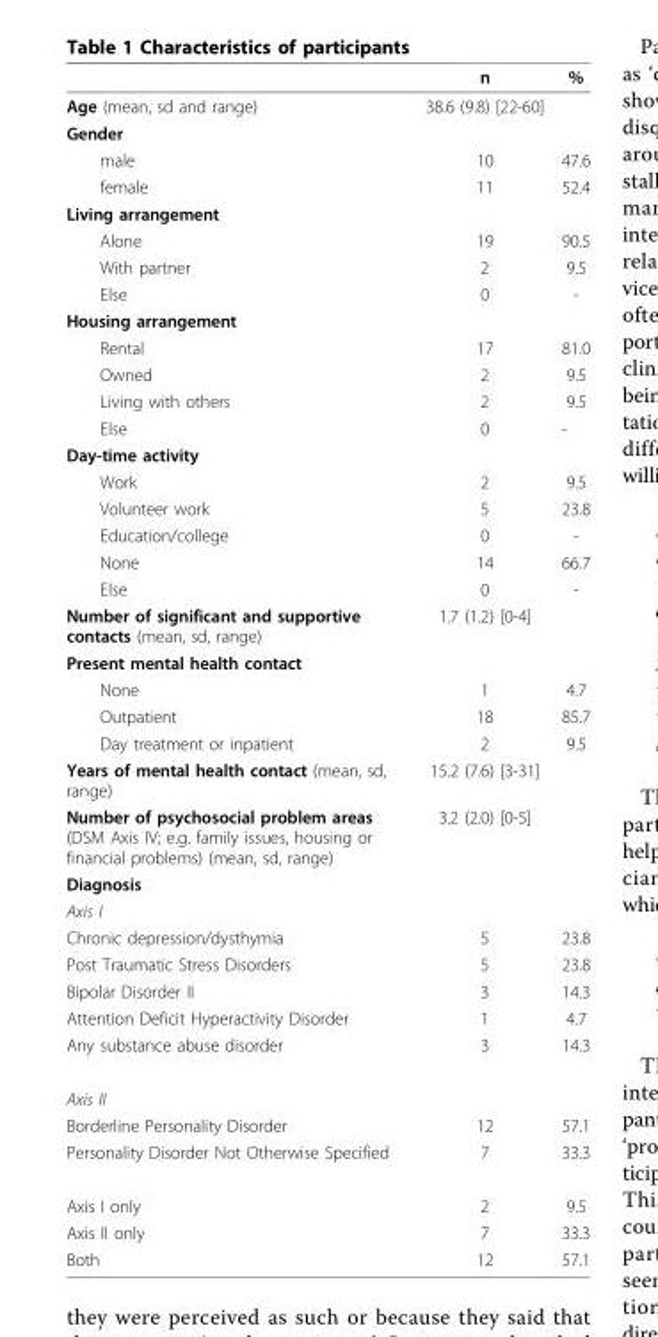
<table><thead><tr><td></td><td>n</td><td>%</td></tr></thead><tbody><tr><td>Age (mean, sd and range)</td><td>38.6 (9.8) [22-60]</td><td></td></tr><tr><td colspan="3">Gender</td></tr><tr><td>male</td><td>10</td><td>47.6</td></tr><tr><td>female</td><td>11</td><td>52.4</td></tr><tr><td colspan="3">Living arrangement</td></tr><tr><td>Alone</td><td>19</td><td>90.5</td></tr><tr><td>With partner</td><td>2</td><td>9.5</td></tr><tr><td>Else</td><td>0</td><td>-</td></tr><tr><td colspan="3">Housing arrangement</td></tr><tr><td>Rental</td><td>17</td><td>81.0</td></tr><tr><td>Owned</td><td>2</td><td>9.5</td></tr><tr><td>Living with others</td><td>2</td><td>9.5</td></tr><tr><td>Else</td><td>0</td><td>-</td></tr><tr><td colspan="3">Day-time activity</td></tr><tr><td>Work</td><td>2</td><td>9.5</td></tr><tr><td>Volunteer work</td><td>5</td><td>23.8</td></tr><tr><td>Education/college</td><td>0</td><td>-</td></tr><tr><td>None</td><td>14</td><td>66.7</td></tr><tr><td>Else</td><td>0</td><td>-</td></tr><tr><td>Number of significant and supportive contacts (mean, sd, range)</td><td>1.7 (1.2) [0-4]</td><td></td></tr><tr><td colspan="3">Present mental health contact</td></tr><tr><td>None</td><td>1</td><td>4.7</td></tr><tr><td>Outpatient</td><td>18</td><td>85.7</td></tr><tr><td>Day treatment or inpatient</td><td>2</td><td>9.5</td></tr><tr><td>Years of mental health contact (mean, sd, range)</td><td>15.2 (7.6) [3-31]</td><td></td></tr><tr><td>Number of psychosocial problem areas (DSM Axis IV; e.g. family issues, housing or financial problems) (mean, sd, range)</td><td>3.2 (2.0) [0-5]</td><td></td></tr><tr><td colspan="3">Diagnosis</td></tr><tr><td colspan="3">Axis I</td></tr><tr><td>Chronic depression/dysthymia</td><td>5</td><td>23.8</td></tr><tr><td>Post Traumatic Stress Disorders</td><td>5</td><td>23.8</td></tr><tr><td>Bipolar Disorder II</td><td>3</td><td>14.3</td></tr><tr><td>Attention Deficit Hyperactivity Disorder</td><td>1</td><td>4.7</td></tr><tr><td>Any substance abuse disorder</td><td>3</td><td>14.3</td></tr><tr><td colspan="3">Axis II</td></tr><tr><td>Borderline Personality Disorder</td><td>12</td><td>57.1</td></tr><tr><td>Personality Disorder Not Otherwise Specified</td><td>7</td><td>33.3</td></tr><tr><td>Axis I only</td><td>2</td><td>9.5</td></tr><tr><td>Axis II only</td><td>7</td><td>33.3</td></tr><tr><td>Both</td><td>12</td><td>57.1</td></tr></tbody></table>